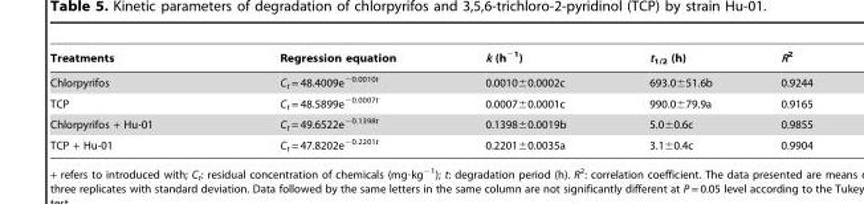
<table><thead><tr><td>Treatments</td><td>Regression equation</td><td>k (h<sup>−1</sup>)</td><td>t<sub>1/2</sub> (h)</td><td>R<sup>2</sup></td></tr></thead><tbody><tr><td>Chlorpyrifos</td><td>C<sub>t</sub> = 48.4009e<sup>−0.0010t</sup></td><td>0.0010±0.0002c</td><td>693.0±51.6b</td><td>0.9244</td></tr><tr><td>TCP</td><td>C<sub>t</sub> = 48.5899e<sup>−0.0007t</sup></td><td>0.0007±0.0001c</td><td>990.0±79.9a</td><td>0.9165</td></tr><tr><td>Chlorpyrifos + Hu-01</td><td>C<sub>t</sub> = 49.6522e<sup>−0.1398t</sup></td><td>0.1398±0.0019b</td><td>5.0±0.6c</td><td>0.9855</td></tr><tr><td>TCP + Hu-01</td><td>C<sub>t</sub> = 47.8202e<sup>−0.2201t</sup></td><td>0.2201±0.0035a</td><td>3.1±0.4c</td><td>0.9904</td></tr></tbody></table>